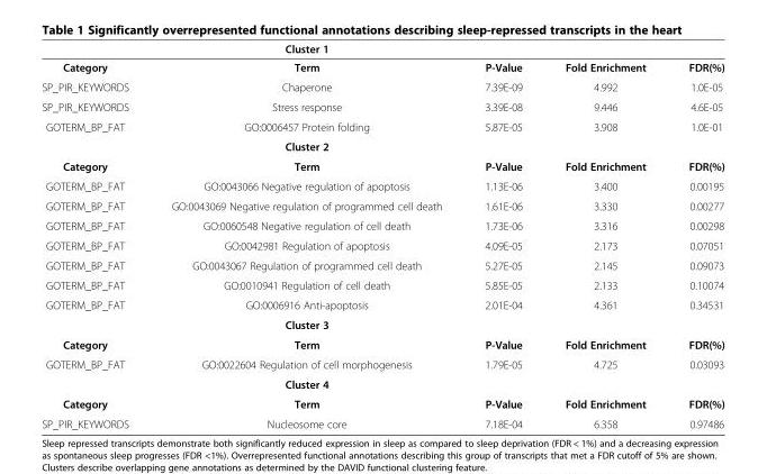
<table><thead><tr><td></td><td>Cluster 1</td><td></td><td></td><td></td></tr></thead><tbody><tr><td>Category</td><td>Term</td><td>P-Value</td><td>Fold Enrichment</td><td>FDR(%)</td></tr><tr><td>SP_PIR_KEYWORDS</td><td>Chaperone</td><td>7.39E-09</td><td>4.992</td><td>1.0E-05</td></tr><tr><td>SP_PIR_KEYWORDS</td><td>Stress response</td><td>3.39E-08</td><td>9.446</td><td>4.6E-05</td></tr><tr><td rowspan="2">GOTERM_BP_FAT</td><td>GO:0006457 Protein folding</td><td>5.87E-05</td><td>3.908</td><td>1.0E-01</td></tr><tr><td>Cluster 2</td><td></td><td></td><td></td></tr><tr><td>Category</td><td>Term</td><td>P-Value</td><td>Fold Enrichment</td><td>FDR(%)</td></tr><tr><td>GOTERM_BP_FAT</td><td>GO:0043066 Negative regulation of apoptosis</td><td>1.13E-06</td><td>3.400</td><td>0.00195</td></tr><tr><td>GOTERM_BP_FAT</td><td>GO:0043069 Negative regulation of programmed cell death</td><td>1.61E-06</td><td>3.330</td><td>0.00277</td></tr><tr><td>GOTERM_BP_FAT</td><td>GO:0060548 Negative regulation of cell death</td><td>1.73E-06</td><td>3.316</td><td>0.00298</td></tr><tr><td>GOTERM_BP_FAT</td><td>GO:0042981 Regulation of apoptosis</td><td>4.09E-05</td><td>2.173</td><td>0.07051</td></tr><tr><td>GOTERM_BP_FAT</td><td>GO:0043067 Regulation of programmed cell death</td><td>5.27E-05</td><td>2.145</td><td>0.09073</td></tr><tr><td>GOTERM_BP_FAT</td><td>GO:0010941 Regulation of cell death</td><td>5.85E-05</td><td>2.133</td><td>0.10074</td></tr><tr><td rowspan="2">GOTERM_BP_FAT</td><td>GO:0006916 Anti-apoptosis</td><td>2.01E-04</td><td>4.361</td><td>0.34531</td></tr><tr><td>Cluster 3</td><td></td><td></td><td></td></tr><tr><td>Category</td><td>Term</td><td>P-Value</td><td>Fold Enrichment</td><td>FDR(%)</td></tr><tr><td rowspan="2">GOTERM_BP_FAT</td><td>GO:0022604 Regulation of cell morphogenesis</td><td>1.79E-05</td><td>4.725</td><td>0.03093</td></tr><tr><td>Cluster 4</td><td></td><td></td><td></td></tr><tr><td>Category</td><td>Term</td><td>P-Value</td><td>Fold Enrichment</td><td>FDR(%)</td></tr><tr><td>SP_PIR_KEYWORDS</td><td>Nucleosome core</td><td>7.18E-04</td><td>6.358</td><td>0.97486</td></tr></tbody></table>